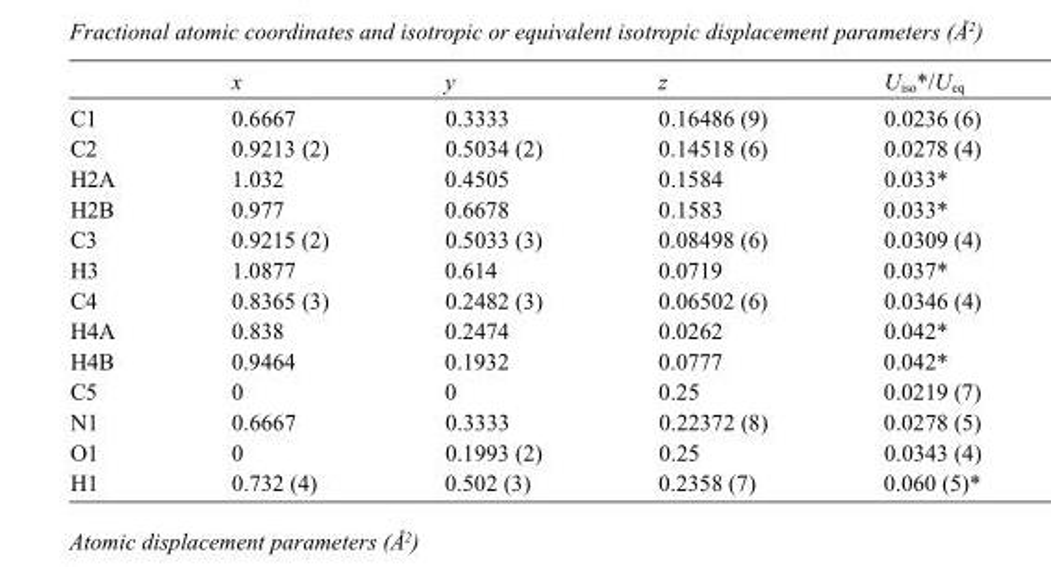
<table><thead><tr><td></td><td>x</td><td>y</td><td>z</td><td>U<sub>iso</sub>*/U<sub>eq</sub></td></tr></thead><tbody><tr><td>C1</td><td>0.6667</td><td>0.3333</td><td>0.16486 (9)</td><td>0.0236 (6)</td></tr><tr><td>C2</td><td>0.9213 (2)</td><td>0.5034 (2)</td><td>0.14518 (6)</td><td>0.0278 (4)</td></tr><tr><td>H2A</td><td>1.032</td><td>0.4505</td><td>0.1584</td><td>0.033*</td></tr><tr><td>H2B</td><td>0.977</td><td>0.6678</td><td>0.1583</td><td>0.033*</td></tr><tr><td>C3</td><td>0.9215 (2)</td><td>0.5033 (3)</td><td>0.08498 (6)</td><td>0.0309 (4)</td></tr><tr><td>H3</td><td>1.0877</td><td>0.614</td><td>0.0719</td><td>0.037*</td></tr><tr><td>C4</td><td>0.8365 (3)</td><td>0.2482 (3)</td><td>0.06502 (6)</td><td>0.0346 (4)</td></tr><tr><td>H4A</td><td>0.838</td><td>0.2474</td><td>0.0262</td><td>0.042*</td></tr><tr><td>H4B</td><td>0.9464</td><td>0.1932</td><td>0.0777</td><td>0.042*</td></tr><tr><td>C5</td><td>0</td><td>0</td><td>0.25</td><td>0.0219 (7)</td></tr><tr><td>N1</td><td>0.6667</td><td>0.3333</td><td>0.22372 (8)</td><td>0.0278 (5)</td></tr><tr><td>O1</td><td>0</td><td>0.1993 (2)</td><td>0.25</td><td>0.0343 (4)</td></tr><tr><td>H1</td><td>0.732 (4)</td><td>0.502 (3)</td><td>0.2358 (7)</td><td>0.060 (5)*</td></tr></tbody></table>